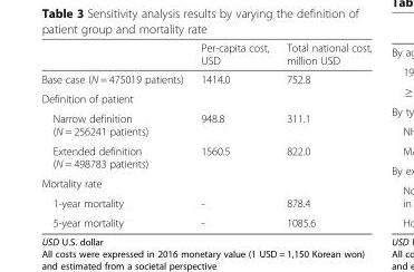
<table><thead><tr><td></td><td>Per-capita cost, USD</td><td>Total national cost, million USD</td></tr></thead><tbody><tr><td>Base case (N = 475019 patients)</td><td>1414.0</td><td>752.8</td></tr><tr><td colspan="3">Definition of patient</td></tr><tr><td>Narrow definition (N = 256241 patients)</td><td>948.8</td><td>311.1</td></tr><tr><td>Extended definition (N = 498783 patients)</td><td>1560.5</td><td>822.0</td></tr><tr><td colspan="3">Mortality rate</td></tr><tr><td>1-year mortality</td><td>-</td><td>878.4</td></tr><tr><td>5-year mortality</td><td>-</td><td>1085.6</td></tr></tbody></table>